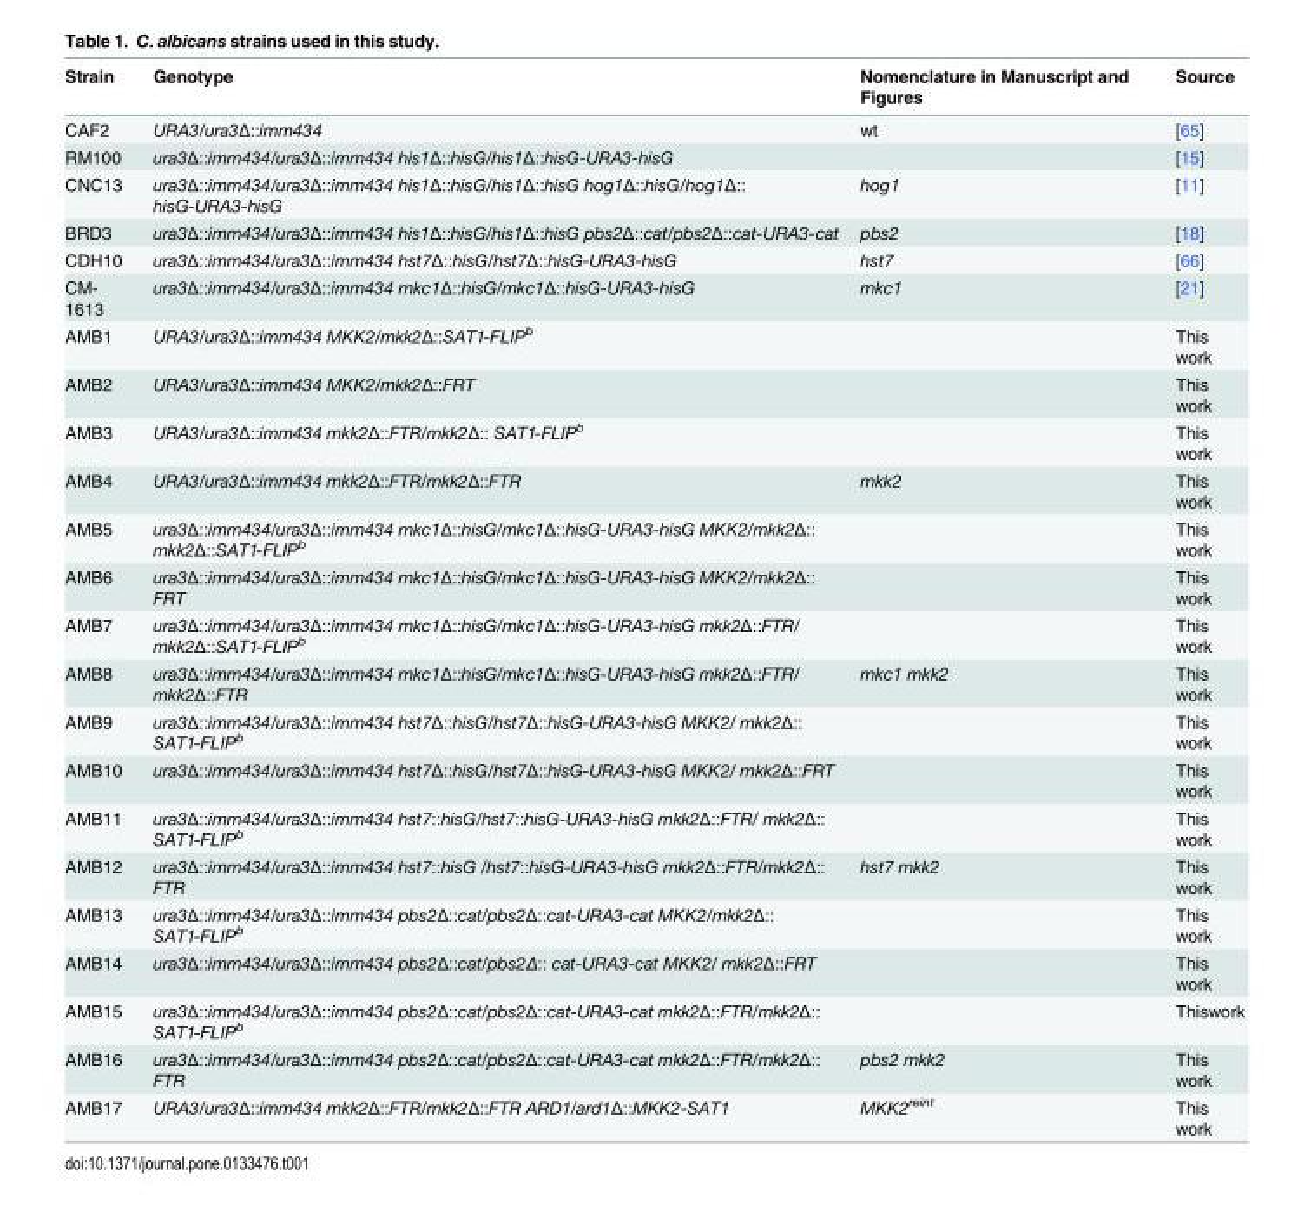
<table><thead><tr><td>Strain</td><td>Genotype</td><td>Nomenclature in Manuscript and Figures</td><td>Source</td></tr></thead><tbody><tr><td>CAF2</td><td>URA3/ura3Δ::imm434</td><td>wt</td><td>[65]</td></tr><tr><td>RM100</td><td>ura3Δ::imm434/ura3Δ::imm434 his1Δ::hisG/his1Δ::hisG-URA3-hisG</td><td></td><td>[15]</td></tr><tr><td>CNC13</td><td>ura3Δ::imm434/ura3Δ::imm434 his1Δ::hisG/his1Δ::hisG hog1Δ::hisG/hog1Δ:: hisG-URA3-hisG</td><td>hog1</td><td>[11]</td></tr><tr><td>BRD3</td><td>ura3Δ::imm434/ura3Δ::imm434 his1Δ::hisG/his1Δ::hisG pbs2Δ::cat/pbs2Δ::cat-URA3-cat</td><td>pbs2</td><td>[18]</td></tr><tr><td>CDH10</td><td>ura3Δ::imm434/ura3Δ::imm434 hst7Δ::hisG/hst7Δ::hisG-URA3-hisG</td><td>hst7</td><td>[66]</td></tr><tr><td>CM- 1613</td><td>ura3Δ::imm434/ura3Δ::imm434 mkc1Δ::hisG/mkc1Δ::hisG-URA3-hisG</td><td>mkc1</td><td>[21]</td></tr><tr><td>AMB1</td><td>URA3/ura3Δ::imm434 MKK2/mkk2Δ::SAT1-FLIP<sup>b</sup></td><td></td><td>This work</td></tr><tr><td>AMB2</td><td>URA3/ura3Δ::imm434 MKK2/mkk2Δ::FRT</td><td></td><td>This work</td></tr><tr><td>AMB3</td><td>URA3/ura3Δ::imm434 mkk2Δ::FTR/mkk2Δ:: SAT1-FLIP<sup>b</sup></td><td></td><td>This work</td></tr><tr><td>AMB4</td><td>URA3/ura3Δ::imm434 mkk2Δ::FTR/mkk2Δ::FTR</td><td>mkk2</td><td>This work</td></tr><tr><td>AMB5</td><td>ura3Δ::imm434/ura3Δ::imm434 mkc1Δ::hisG/mkc1Δ::hisG-URA3-hisG MKK2/mkk2Δ:: mkk2Δ::SAT1-FLIP<sup>b</sup></td><td></td><td>This work</td></tr><tr><td>AMB6</td><td>ura3Δ::imm434/ura3Δ::imm434 mkc1Δ::hisG/mkc1Δ::hisG-URA3-hisG MKK2/mkk2Δ:: FRT</td><td></td><td>This work</td></tr><tr><td>AMB7</td><td>ura3Δ::imm434/ura3Δ::imm434 mkc1Δ::hisG/mkc1Δ::hisG-URA3-hisG mkk2Δ::FTR/ mkk2Δ::SAT1-FLIP<sup>b</sup></td><td></td><td>This work</td></tr><tr><td>AMB8</td><td>ura3Δ::imm434/ura3Δ::imm434 mkc1Δ::hisG/mkc1Δ::hisG-URA3-hisG mkk2Δ::FTR/ mkk2Δ::FTR</td><td>mkc1 mkk2</td><td>This work</td></tr><tr><td>AMB9</td><td>ura3Δ::imm434/ura3Δ::imm434 hst7Δ::hisG/hst7Δ::hisG-URA3-hisG MKK2/ mkk2Δ:: SAT1-FLIP<sup>b</sup></td><td></td><td>This work</td></tr><tr><td>AMB10</td><td>ura3Δ::imm434/ura3Δ::imm434 hst7Δ::hisG/hst7Δ::hisG-URA3-hisG MKK2/ mkk2Δ::FRT</td><td></td><td>This work</td></tr><tr><td>AMB11</td><td>ura3Δ::imm434/ura3Δ::imm434 hst7::hisG/hst7::hisG-URA3-hisG mkk2Δ::FTR/ mkk2Δ:: SAT1-FLIP<sup>b</sup></td><td></td><td>This work</td></tr><tr><td>AMB12</td><td>ura3Δ::imm434/ura3Δ::imm434 hst7::hisG /hst7::hisG-URA3-hisG mkk2Δ::FTR/mkk2Δ:: FTR</td><td>hst7 mkk2</td><td>This work</td></tr><tr><td>AMB13</td><td>ura3Δ::imm434/ura3Δ::imm434 pbs2Δ::cat/pbs2Δ::cat-URA3-cat MKK2/mkk2Δ:: SAT1-FLIP<sup>b</sup></td><td></td><td>This work</td></tr><tr><td>AMB14</td><td>ura3Δ::imm434/ura3Δ::imm434 pbs2Δ::cat/pbs2Δ:: cat-URA3-cat MKK2/ mkk2Δ::FRT</td><td></td><td>This work</td></tr><tr><td>AMB15</td><td>ura3Δ::imm434/ura3Δ::imm434 pbs2Δ::cat/pbs2Δ::cat-URA3-cat mkk2Δ::FTR/mkk2Δ:: SAT1-FLIP<sup>b</sup></td><td></td><td>Thiswork</td></tr><tr><td>AMB16</td><td>ura3Δ::imm434/ura3Δ::imm434 pbs2Δ::cat/pbs2Δ::cat-URA3-cat mkk2Δ::FTR/mkk2Δ:: FTR</td><td>pbs2 mkk2</td><td>This work</td></tr><tr><td>AMB17</td><td>URA3/ura3Δ::imm434 mkk2Δ::FTR/mkk2Δ::FTR ARD1/ard1Δ::MKK2-SAT1</td><td>MKK2<sup>reint</sup></td><td>This work</td></tr></tbody></table>